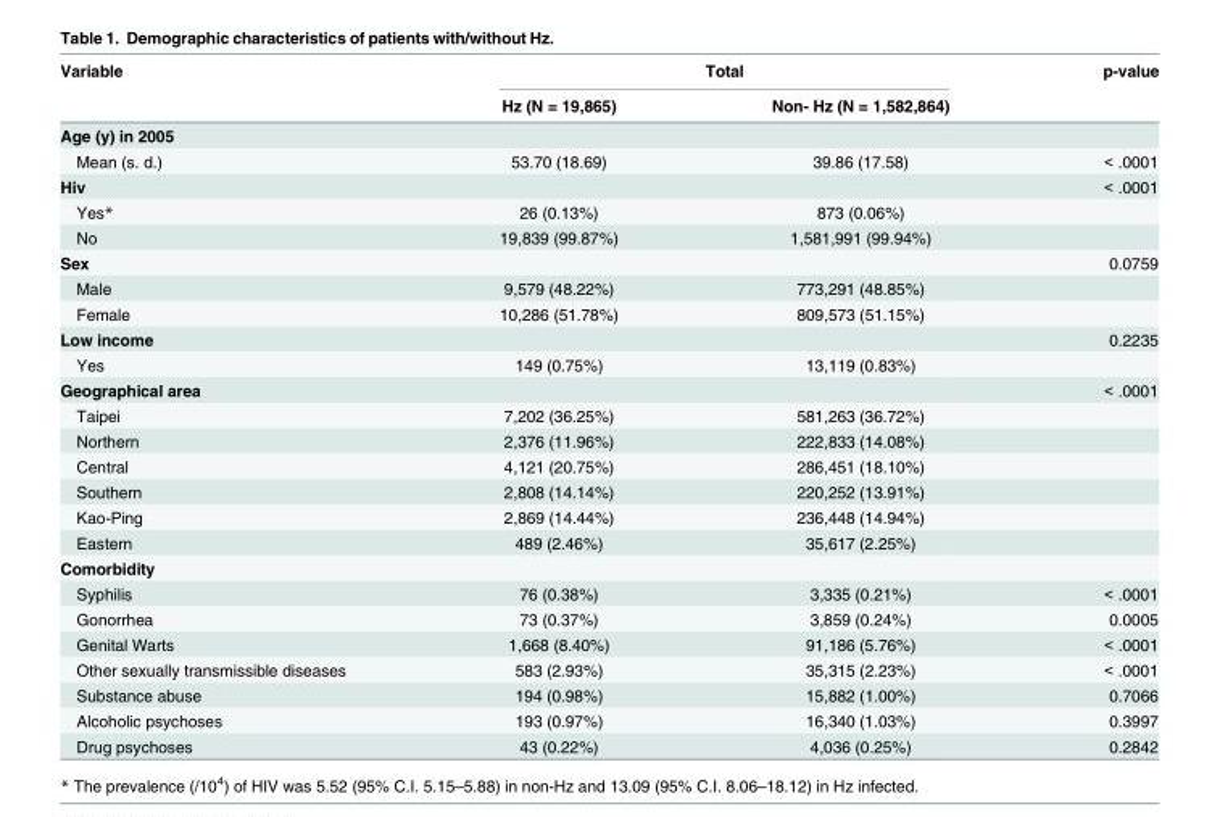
<table><thead><tr><td rowspan="2">Variable</td><td colspan="2">Total</td><td rowspan="2">p-value</td></tr><tr><td>Hz (N = 19,865)</td><td>Non- Hz (N = 1,582,864)</td></tr></thead><tbody><tr><td colspan="4">Age (y) in 2005</td></tr><tr><td>Mean (s. d.)</td><td>53.70 (18.69)</td><td>39.86 (17.58)</td><td>&lt; .0001</td></tr><tr><td>Hiv</td><td></td><td></td><td>&lt; .0001</td></tr><tr><td>Yes*</td><td>26 (0.13%)</td><td>873 (0.06%)</td><td></td></tr><tr><td>No</td><td>19,839 (99.87%)</td><td>1,581,991 (99.94%)</td><td></td></tr><tr><td>Sex</td><td></td><td></td><td>0.0759</td></tr><tr><td>Male</td><td>9,579 (48.22%)</td><td>773,291 (48.85%)</td><td></td></tr><tr><td>Female</td><td>10,286 (51.78%)</td><td>809,573 (51.15%)</td><td></td></tr><tr><td>Low income</td><td></td><td></td><td>0.2235</td></tr><tr><td>Yes</td><td>149 (0.75%)</td><td>13,119 (0.83%)</td><td></td></tr><tr><td>Geographical area</td><td></td><td></td><td>&lt; .0001</td></tr><tr><td>Taipei</td><td>7,202 (36.25%)</td><td>581,263 (36.72%)</td><td></td></tr><tr><td>Northern</td><td>2,376 (11.96%)</td><td>222,833 (14.08%)</td><td></td></tr><tr><td>Central</td><td>4,121 (20.75%)</td><td>286,451 (18.10%)</td><td></td></tr><tr><td>Southern</td><td>2,808 (14.14%)</td><td>220,252 (13.91%)</td><td></td></tr><tr><td>Kao-Ping</td><td>2,869 (14.44%)</td><td>236,448 (14.94%)</td><td></td></tr><tr><td>Eastern</td><td>489 (2.46%)</td><td>35,617 (2.25%)</td><td></td></tr><tr><td colspan="4">Comorbidity</td></tr><tr><td>Syphilis</td><td>76 (0.38%)</td><td>3,335 (0.21%)</td><td>&lt; .0001</td></tr><tr><td>Gonorrhea</td><td>73 (0.37%)</td><td>3,859 (0.24%)</td><td>0.0005</td></tr><tr><td>Genital Warts</td><td>1,668 (8.40%)</td><td>91,186 (5.76%)</td><td>&lt; .0001</td></tr><tr><td>Other sexually transmissible diseases</td><td>583 (2.93%)</td><td>35,315 (2.23%)</td><td>&lt; .0001</td></tr><tr><td>Substance abuse</td><td>194 (0.98%)</td><td>15,882 (1.00%)</td><td>0.7066</td></tr><tr><td>Alcoholic psychoses</td><td>193 (0.97%)</td><td>16,340 (1.03%)</td><td>0.3997</td></tr><tr><td>Drug psychoses</td><td>43 (0.22%)</td><td>4,036 (0.25%)</td><td>0.2842</td></tr></tbody></table>